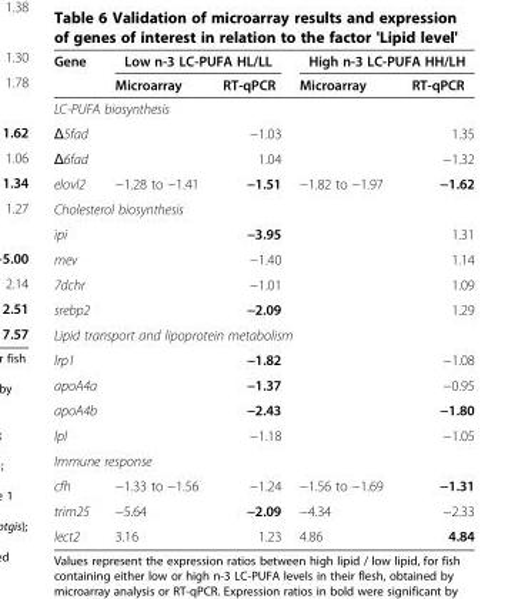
<table><thead><tr><td rowspan="2">Gene</td><td colspan="2">Low n-3 LC-PUFA HL/LL</td><td colspan="2">High n-3 LC-PUFA HH/LH</td></tr><tr><td>Microarray</td><td>RT-qPCR</td><td>Microarray</td><td>RT-qPCR</td></tr></thead><tbody><tr><td colspan="5">LC-PUFA biosynthesis</td></tr><tr><td>Δ5fad</td><td></td><td>−1.03</td><td></td><td>1.35</td></tr><tr><td>Δ6fad</td><td></td><td>1.04</td><td></td><td>−1.32</td></tr><tr><td>elovl2</td><td>−1.28 to −1.41</td><td>−1.51</td><td>−1.82 to −1.97</td><td>−1.62</td></tr><tr><td colspan="5">Cholesterol biosynthesis</td></tr><tr><td>ipi</td><td></td><td>−3.95</td><td></td><td>1.31</td></tr><tr><td>mev</td><td></td><td>−1.40</td><td></td><td>1.14</td></tr><tr><td>7dchr</td><td></td><td>−1.01</td><td></td><td>1.09</td></tr><tr><td>srebp2</td><td></td><td>−2.09</td><td></td><td>1.29</td></tr><tr><td colspan="5">Lipid transport and lipoprotein metabolism</td></tr><tr><td>lrp1</td><td></td><td>−1.82</td><td></td><td>−1.08</td></tr><tr><td>apoA4a</td><td></td><td>−1.37</td><td></td><td>−0.95</td></tr><tr><td>apoA4b</td><td></td><td>−2.43</td><td></td><td>−1.80</td></tr><tr><td>lpl</td><td></td><td>−1.18</td><td></td><td>−1.05</td></tr><tr><td colspan="5">Immune response</td></tr><tr><td>cfh</td><td>−1.33 to −1.56</td><td>−1.24</td><td>−1.56 to −1.69</td><td>−1.31</td></tr><tr><td>trim25</td><td>−5.64</td><td>−2.09</td><td>−4.34</td><td>−2.33</td></tr><tr><td>lect2</td><td>3.16</td><td>1.23</td><td>4.86</td><td>4.84</td></tr></tbody></table>